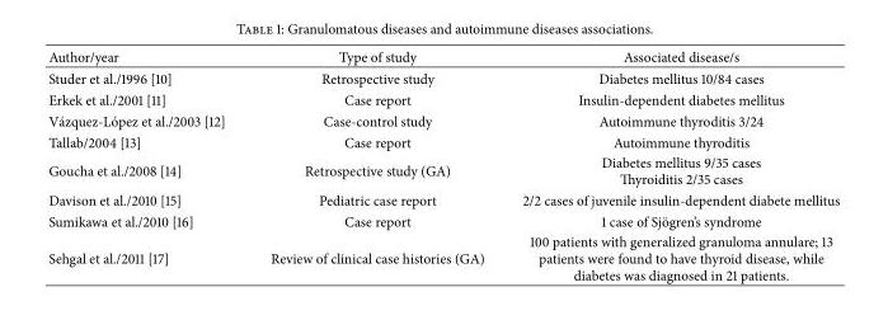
<table><thead><tr><td>Author/year</td><td>Type of study</td><td>Associated disease/s</td></tr></thead><tbody><tr><td>Studer et al./1996 [10]</td><td>Retrospective study</td><td>Diabetes mellitus 10/84 cases</td></tr><tr><td>Erkek et al./2001 [11]</td><td>Case report</td><td>Insulin-dependent diabetes mellitus</td></tr><tr><td>V´azquez-L´opez et al./2003 [12]</td><td>Case-control study</td><td>Autoimmune thyroditis 3/24</td></tr><tr><td>Tallab/2004 [13]</td><td>Case report</td><td>Autoimmune thyroditis</td></tr><tr><td>Goucha et al./2008 [14]</td><td>Retrospective study (GA)</td><td>Diabetes mellitus 9/35 cases Thyroiditis 2/35 cases</td></tr><tr><td>Davison et al./2010 [15]</td><td>Pediatric case report</td><td>2/2 cases of juvenile insulin-dependent diabete mellitus</td></tr><tr><td>Sumikawa et al./2010 [16]</td><td>Case report</td><td>1 case of Sj¨ogren’s syndrome</td></tr><tr><td>Sehgal et al./2011 [17]</td><td>Review of clinical case histories (GA)</td><td>100 patients with generalized granuloma annulare; 13 patients were found to have thyroid disease, while diabetes was diagnosed in 21 patients.</td></tr></tbody></table>